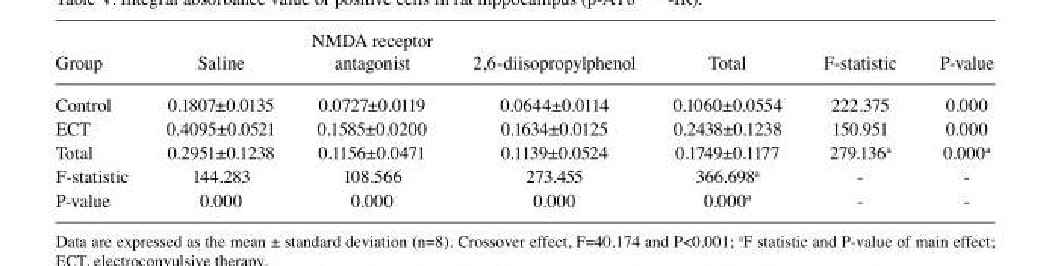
<table><thead><tr><td>Group</td><td>Saline</td><td>antagonist</td><td>2,6-diisopropylphenol</td><td>Total</td><td>F-statistic</td><td>P-value</td></tr></thead><tbody><tr><td>Control</td><td>0.1807±0.0135</td><td>0.0727±0.0119</td><td>0.0644±0.0114</td><td>0.1060±0.0554</td><td>222.375</td><td>0.000</td></tr><tr><td>ECT</td><td>0.4095±0.0521</td><td>0.1585±0.0200</td><td>0.1634±0.0125</td><td>0.2438±0.1238</td><td>150.951</td><td>0.000</td></tr><tr><td>Total</td><td>0.2951±0.1238</td><td>0.1156±0.0471</td><td>0.1139±0.0524</td><td>0.1749±0.1177</td><td>279.136<sup>a</sup></td><td>0.000<sup>a</sup></td></tr><tr><td>F-statistic</td><td>144.283</td><td>108.566</td><td>273.455</td><td>366.698<sup>a</sup></td><td>-</td><td>-</td></tr><tr><td>P-value</td><td>0.000</td><td>0.000</td><td>0.000</td><td>0.000<sup>a</sup></td><td>-</td><td>-</td></tr></tbody></table>